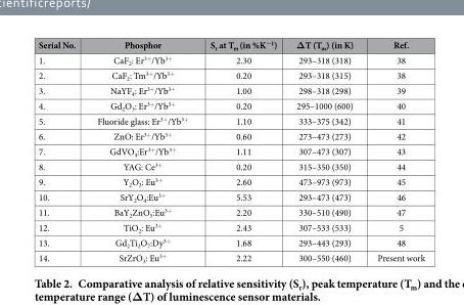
<table><thead><tr><td>Serial No.</td><td>Phosphor</td><td>S<sub>r</sub> at T<sub>m</sub> (in %K<sup>−1</sup>)</td><td>ΔT (T<sub>m</sub>) (in K)</td><td>Ref.</td></tr></thead><tbody><tr><td>1.</td><td>CaF<sub>2</sub>: Er<sup>3+</sup>/Yb<sup>3+</sup></td><td>2.30</td><td>293–318 (318)</td><td>38</td></tr><tr><td>2.</td><td>CaF<sub>2</sub>: Tm<sup>3+</sup>/Yb<sup>3+</sup></td><td>0.20</td><td>293–318 (315)</td><td>38</td></tr><tr><td>3.</td><td>NaYF<sub>4</sub>: Er<sup>3+</sup>/Yb<sup>3+</sup></td><td>1.00</td><td>298–318 (298)</td><td>39</td></tr><tr><td>4.</td><td>Gd<sub>2</sub>O<sub>3</sub>: Er<sup>3+</sup>/Yb<sup>3+</sup></td><td>0.20</td><td>295–1000 (600)</td><td>40</td></tr><tr><td>5.</td><td>Fluoride glass: Er<sup>3+</sup>/Yb<sup>3+</sup></td><td>1.10</td><td>333–375 (342)</td><td>41</td></tr><tr><td>6.</td><td>ZnO: Er<sup>3+</sup>/Yb<sup>3+</sup></td><td>0.60</td><td>273–473 (273)</td><td>42</td></tr><tr><td>7.</td><td>GdVO<sub>4</sub>:Er<sup>3+</sup>/Yb<sup>3+</sup></td><td>1.11</td><td>307–473 (307)</td><td>43</td></tr><tr><td>8.</td><td>YAG: Ce<sup>3+</sup></td><td>0.20</td><td>315–350 (350)</td><td>44</td></tr><tr><td>9.</td><td>Y<sub>2</sub>O<sub>3</sub>: Eu<sup>3+</sup></td><td>2.60</td><td>473–973 (973)</td><td>45</td></tr><tr><td>10.</td><td>SrY<sub>2</sub>O<sub>4</sub>:Eu<sup>3+</sup></td><td>5.53</td><td>293–473 (473)</td><td>46</td></tr><tr><td>11.</td><td>BaY<sub>2</sub>ZnO<sub>5</sub>:Eu<sup>3+</sup></td><td>2.20</td><td>330–510 (490)</td><td>47</td></tr><tr><td>12.</td><td>TiO<sub>2</sub>: Eu<sup>3+</sup></td><td>2.43</td><td>307–533 (533)</td><td>5</td></tr><tr><td>13.</td><td>Gd<sub>2</sub>Ti<sub>2</sub>O<sub>7</sub>:Dy<sup>3+</sup></td><td>1.68</td><td>293–443 (293)</td><td>48</td></tr><tr><td>14.</td><td>SrZrO<sub>3</sub>: Eu<sup>3+</sup></td><td>2.22</td><td>300–550 (460)</td><td>Present work</td></tr></tbody></table>